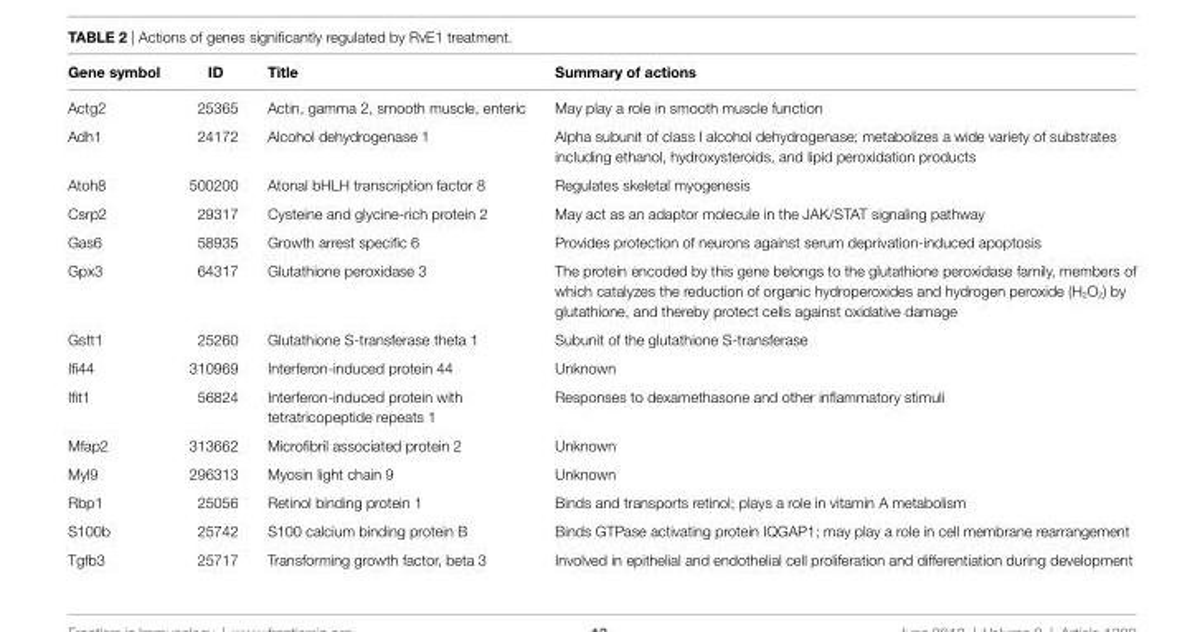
<table><thead><tr><td>gene symbol</td><td>iD</td><td>Title</td><td>summary of actions</td></tr></thead><tbody><tr><td>Actg2</td><td>25365</td><td>Actin, gamma 2, smooth muscle, enteric</td><td>May play a role in smooth muscle function</td></tr><tr><td>Adh1</td><td>24172</td><td>Alcohol dehydrogenase 1</td><td>Alpha subunit of class I alcohol dehydrogenase; metabolizes a wide variety of substrates including ethanol, hydroxysteroids, and lipid peroxidation products</td></tr><tr><td>Atoh8</td><td>500200</td><td>Atonal bHLH transcription factor 8</td><td>Regulates skeletal myogenesis</td></tr><tr><td>Csrp2</td><td>29317</td><td>Cysteine and glycine-rich protein 2</td><td>May act as an adaptor molecule in the JAK/STAT signaling pathway</td></tr><tr><td>Gas6</td><td>58935</td><td>Growth arrest specific 6</td><td>Provides protection of neurons against serum deprivation-induced apoptosis</td></tr><tr><td>Gpx3</td><td>64317</td><td>Glutathione peroxidase 3</td><td>The protein encoded by this gene belongs to the glutathione peroxidase family, members of which catalyzes the reduction of organic hydroperoxides and hydrogen peroxide (H<sub>2</sub>O<sub>2</sub>) by glutathione, and thereby protect cells against oxidative damage</td></tr><tr><td>Gstt1</td><td>25260</td><td>Glutathione S-transferase theta 1</td><td>Subunit of the glutathione S-transferase</td></tr><tr><td>Ifi44</td><td>310969</td><td>Interferon-induced protein 44</td><td>Unknown</td></tr><tr><td>Ifit1</td><td>56824</td><td>Interferon-induced protein with tetratricopeptide repeats 1</td><td>Responses to dexamethasone and other inflammatory stimuli</td></tr><tr><td>Mfap2</td><td>313662</td><td>Microfibril associated protein 2</td><td>Unknown</td></tr><tr><td>Myl9</td><td>296313</td><td>Myosin light chain 9</td><td>Unknown</td></tr><tr><td>Rbp1</td><td>25056</td><td>Retinol binding protein 1</td><td>Binds and transports retinol; plays a role in vitamin A metabolism</td></tr><tr><td>S100b</td><td>25742</td><td>S100 calcium binding protein B</td><td>Binds GTPase activating protein IQGAP1; may play a role in cell membrane rearrangement</td></tr><tr><td>Tgfb3</td><td>25717</td><td>Transforming growth factor, beta 3</td><td>Involved in epithelial and endothelial cell proliferation and differentiation during development</td></tr></tbody></table>